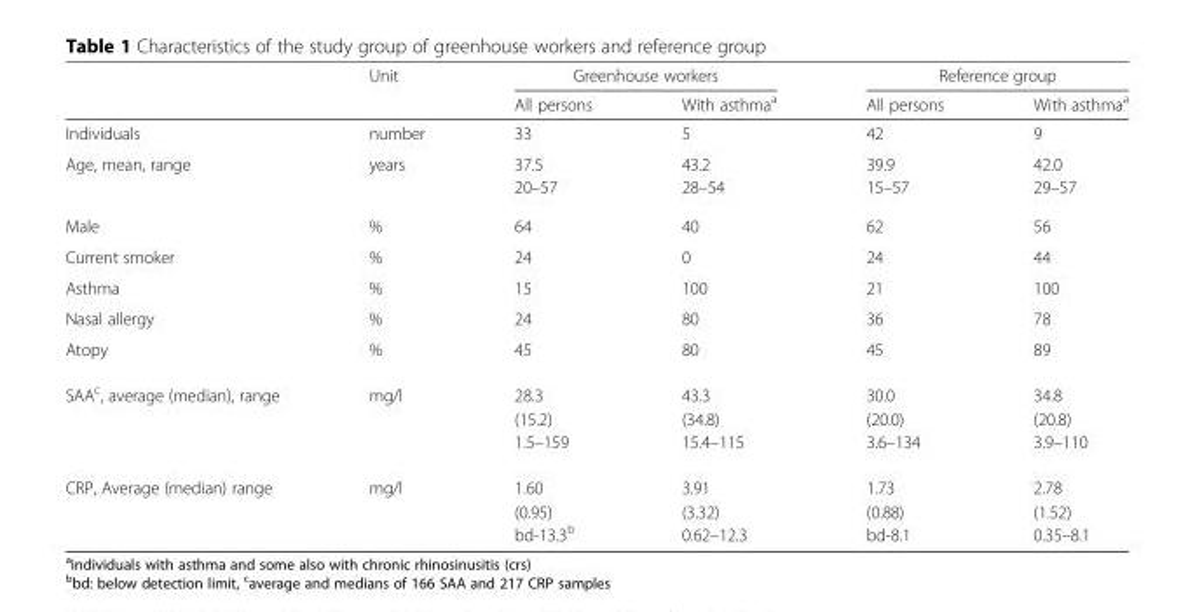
<table><thead><tr><td rowspan="2"></td><td rowspan="2">Unit</td><td colspan="2">Greenhouse workers</td><td colspan="2">Reference group</td></tr><tr><td>All persons</td><td>With asthma<sup>a</sup></td><td>All persons</td><td>With asthma<sup>a</sup></td></tr></thead><tbody><tr><td>Individuals</td><td>number</td><td>33</td><td>5</td><td>42</td><td>9</td></tr><tr><td rowspan="2">Age, mean, range</td><td rowspan="2">years</td><td>37.5</td><td>43.2</td><td>39.9</td><td>42.0</td></tr><tr><td>20–57</td><td>28–54</td><td>15–57</td><td>29–57</td></tr><tr><td>Male</td><td>%</td><td>64</td><td>40</td><td>62</td><td>56</td></tr><tr><td>Current smoker</td><td>%</td><td>24</td><td>0</td><td>24</td><td>44</td></tr><tr><td>Asthma</td><td>%</td><td>15</td><td>100</td><td>21</td><td>100</td></tr><tr><td>Nasal allergy</td><td>%</td><td>24</td><td>80</td><td>36</td><td>78</td></tr><tr><td>Atopy</td><td>%</td><td>45</td><td>80</td><td>45</td><td>89</td></tr><tr><td rowspan="3">SAA<sup>c</sup>, average (median), range</td><td rowspan="3">mg/l</td><td>28.3</td><td>43.3</td><td>30.0</td><td>34.8</td></tr><tr><td>(15.2)</td><td>(34.8)</td><td>(20.0)</td><td>(20.8)</td></tr><tr><td>1.5–159</td><td>15.4–115</td><td>3.6–134</td><td>3.9–110</td></tr><tr><td rowspan="3">CRP, Average (median) range</td><td rowspan="3">mg/l</td><td>1.60</td><td>3.91</td><td>1.73</td><td>2.78</td></tr><tr><td>(0.95)</td><td>(3.32)</td><td>(0.88)</td><td>(1.52)</td></tr><tr><td>bd-13.3<sup>b</sup></td><td>0.62–12.3</td><td>bd-8.1</td><td>0.35–8.1</td></tr></tbody></table>